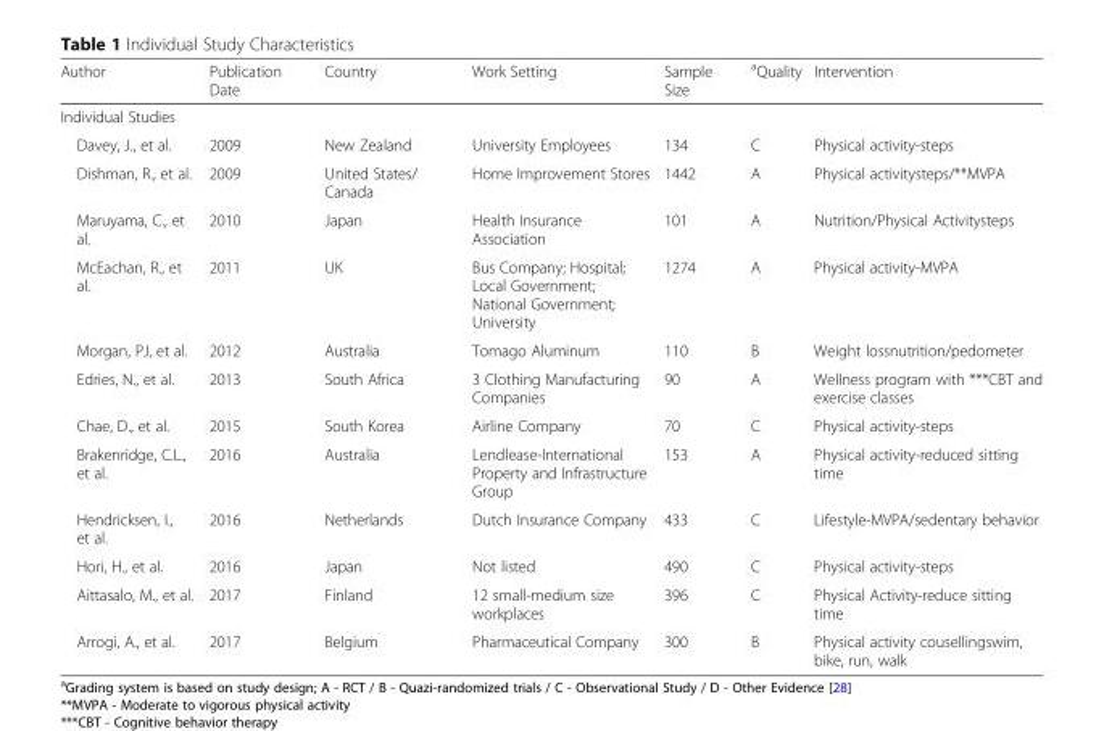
<table><thead><tr><td>Author</td><td>Publication Date</td><td>Country</td><td>Work Setting</td><td>Sample Size</td><td><sup>a</sup>Quality</td><td>Intervention</td></tr></thead><tbody><tr><td colspan="7">Individual Studies</td></tr><tr><td>Davey, J., et al.</td><td>2009</td><td>New Zealand</td><td>University Employees</td><td>134</td><td>C</td><td>Physical activity-steps</td></tr><tr><td>Dishman, R., et al.</td><td>2009</td><td>United States/ Canada</td><td>Home Improvement Stores</td><td>1442</td><td>A</td><td>Physical activitysteps/**MVPA</td></tr><tr><td>Maruyama, C., et al.</td><td>2010</td><td>Japan</td><td>Health Insurance Association</td><td>101</td><td>A</td><td>Nutrition/Physical Activitysteps</td></tr><tr><td>McEachan, R., et al.</td><td>2011</td><td>UK</td><td>Bus Company; Hospital; Local Government; National Government; University</td><td>1274</td><td>A</td><td>Physical activity-MVPA</td></tr><tr><td>Morgan, PJ, et al.</td><td>2012</td><td>Australia</td><td>Tomago Aluminum</td><td>110</td><td>B</td><td>Weight lossnutrition/pedometer</td></tr><tr><td>Edries, N., et al.</td><td>2013</td><td>South Africa</td><td>3 Clothing Manufacturing Companies</td><td>90</td><td>A</td><td>Wellness program with ***CBT and exercise classes</td></tr><tr><td>Chae, D., et al.</td><td>2015</td><td>South Korea</td><td>Airline Company</td><td>70</td><td>C</td><td>Physical activity-steps</td></tr><tr><td>Brakenridge, C.L., et al.</td><td>2016</td><td>Australia</td><td>Lendlease-International Property and Infrastructure Group</td><td>153</td><td>A</td><td>Physical activity-reduced sitting time</td></tr><tr><td>Hendricksen, I., et al.</td><td>2016</td><td>Netherlands</td><td>Dutch Insurance Company</td><td>433</td><td>C</td><td>Lifestyle-MVPA/sedentary behavior</td></tr><tr><td>Hori, H., et al.</td><td>2016</td><td>Japan</td><td>Not listed</td><td>490</td><td>C</td><td>Physical activity-steps</td></tr><tr><td>Aittasalo, M., et al.</td><td>2017</td><td>Finland</td><td>12 small-medium size workplaces</td><td>396</td><td>C</td><td>Physical Activity-reduce sitting time</td></tr><tr><td>Arrogi, A., et al.</td><td>2017</td><td>Belgium</td><td>Pharmaceutical Company</td><td>300</td><td>B</td><td>Physical activity cousellingswim, bike, run, walk</td></tr></tbody></table>